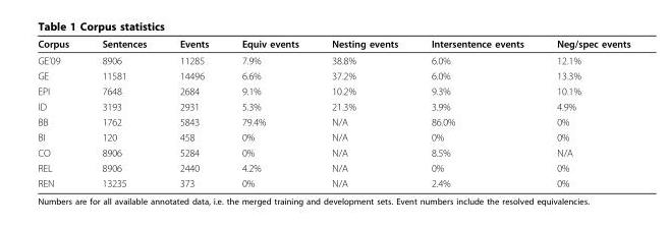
<table><thead><tr><td>Corpus</td><td>Sentences</td><td>Events</td><td>Equiv events</td><td>Nesting events</td><td>Intersentence events</td><td>Neg/spec events</td></tr></thead><tbody><tr><td>GE’09</td><td>8906</td><td>11285</td><td>7.9%</td><td>38.8%</td><td>6.0%</td><td>12.1%</td></tr><tr><td>GE</td><td>11581</td><td>14496</td><td>6.6%</td><td>37.2%</td><td>6.0%</td><td>13.3%</td></tr><tr><td>EPI</td><td>7648</td><td>2684</td><td>9.1%</td><td>10.2%</td><td>9.3%</td><td>10.1%</td></tr><tr><td>ID</td><td>3193</td><td>2931</td><td>5.3%</td><td>21.3%</td><td>3.9%</td><td>4.9%</td></tr><tr><td>BB</td><td>1762</td><td>5843</td><td>79.4%</td><td>N/A</td><td>86.0%</td><td>0%</td></tr><tr><td>BI</td><td>120</td><td>458</td><td>0%</td><td>N/A</td><td>0%</td><td>0%</td></tr><tr><td>CO</td><td>8906</td><td>5284</td><td>0%</td><td>N/A</td><td>8.5%</td><td>N/A</td></tr><tr><td>REL</td><td>8906</td><td>2440</td><td>4.2%</td><td>N/A</td><td>0%</td><td>0%</td></tr><tr><td>REN</td><td>13235</td><td>373</td><td>0%</td><td>N/A</td><td>2.4%</td><td>0%</td></tr></tbody></table>